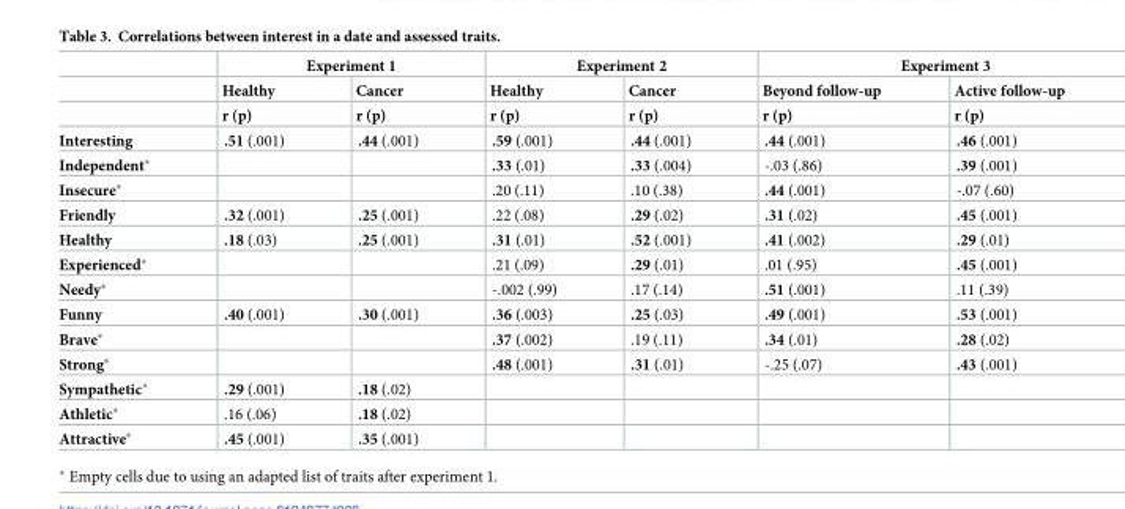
<table><thead><tr><td rowspan="3"></td><td colspan="2">Experiment 1</td><td colspan="2">Experiment 2</td><td colspan="2">Experiment 3</td></tr><tr><td rowspan="2">Healthy r (p)</td><td rowspan="2">Cancer r (p)</td><td rowspan="2">Healthy r (p)</td><td rowspan="2">Cancer r (p)</td><td rowspan="2">Beyond follow-up r (p)</td><td rowspan="2">Active follow-up r (p)</td></tr><tr></tr></thead><tbody><tr><td>Interesting</td><td>.51 (.001)</td><td>.44 (.001)</td><td>.59 (.001)</td><td>.44 (.001)</td><td>.44 (.001)</td><td>.46 (.001)</td></tr><tr><td>Independent*</td><td></td><td></td><td>.33 (.01)</td><td>.33 (.004)</td><td>-.03 (.86)</td><td>.39 (.001)</td></tr><tr><td>Insecure*</td><td></td><td></td><td>.20 (.11)</td><td>.10 (.38)</td><td>.44 (.001)</td><td>-.07 (.60)</td></tr><tr><td>Friendly</td><td>.32 (.001)</td><td>.25 (.001)</td><td>.22 (.08)</td><td>.29 (.02)</td><td>.31 (.02)</td><td>.45 (.001)</td></tr><tr><td>Healthy</td><td>.18 (.03)</td><td>.25 (.001)</td><td>.31 (.01)</td><td>.52 (.001)</td><td>.41 (.002)</td><td>.29 (.01)</td></tr><tr><td>Experienced*</td><td></td><td></td><td>.21 (.09)</td><td>.29 (.01)</td><td>.01 (.95)</td><td>.45 (.001)</td></tr><tr><td>Needy*</td><td></td><td></td><td>-.002 (.99)</td><td>.17 (.14)</td><td>.51 (.001)</td><td>.11 (.39)</td></tr><tr><td>Funny</td><td>.40 (.001)</td><td>.30 (.001)</td><td>.36 (.003)</td><td>.25 (.03)</td><td>.49 (.001)</td><td>.53 (.001)</td></tr><tr><td>Brave*</td><td></td><td></td><td>.37 (.002)</td><td>.19 (.11)</td><td>.34 (.01)</td><td>.28 (.02)</td></tr><tr><td>Strong*</td><td></td><td></td><td>.48 (.001)</td><td>.31 (.01)</td><td>-.25 (.07)</td><td>.43 (.001)</td></tr><tr><td>Sympathetic*</td><td>.29 (.001)</td><td>.18 (.02)</td><td></td><td></td><td></td><td></td></tr><tr><td>Athletic*</td><td>.16 (.06)</td><td>.18 (.02)</td><td></td><td></td><td></td><td></td></tr><tr><td>Attractive*</td><td>.45 (.001)</td><td>.35 (.001)</td><td></td><td></td><td></td><td></td></tr></tbody></table>